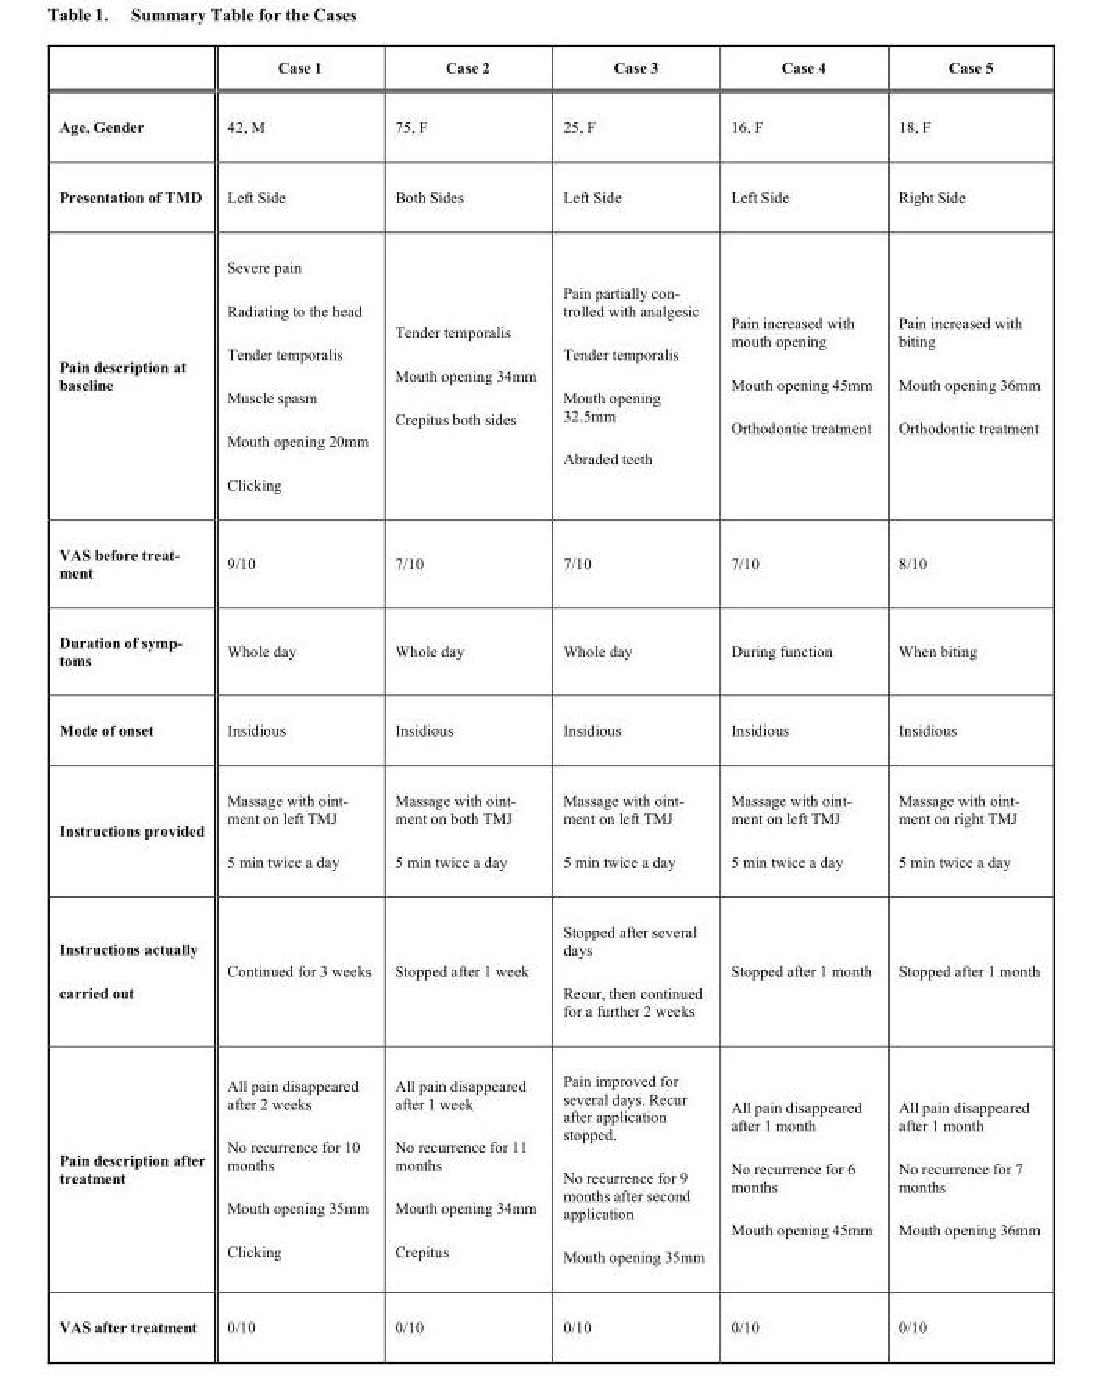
<table><thead><tr><td></td><td>Case 1</td><td>Case 2</td><td>Case 3</td><td>Case 4</td><td>Case 5</td></tr></thead><tbody><tr><td>Age, Gender</td><td>42, M</td><td>75, F</td><td>25, F</td><td>16, F</td><td>18, F</td></tr><tr><td>Presentation of TMD</td><td>Left Side</td><td>Both Sides</td><td>Left Side</td><td>Left Side</td><td>Right Side</td></tr><tr><td>Pain description at baseline</td><td>Severe pain Radiating to the head Tender temporalis Muscle spasm Mouth opening 20mm Clicking</td><td>Tender temporalis Mouth opening 34mm Crepitus both sides</td><td>Pain partially con- trolled with analgesic Tender temporalis Mouth opening 32.5mm Abraded teeth</td><td>Pain increased with mouth opening Mouth opening 45mm Orthodontic treatment</td><td>Pain increased with biting Mouth opening 36mm Orthodontic treatment</td></tr><tr><td>VAS before treat- ment</td><td>9/10</td><td>7/10</td><td>7/10</td><td>7/10</td><td>8/10</td></tr><tr><td>Duration of symp- toms</td><td>Whole day</td><td>Whole day</td><td>Whole day</td><td>During function</td><td>When biting</td></tr><tr><td>Mode of onset</td><td>Insidious</td><td>Insidious</td><td>Insidious</td><td>Insidious</td><td>Insidious</td></tr><tr><td>Instructions provided</td><td>Massage with oint- ment on left TMJ 5 min twice a day</td><td>Massage with oint- ment on both TMJ 5 min twice a day</td><td>Massage with oint- ment on left TMJ 5 min twice a day</td><td>Massage with oint- ment on left TMJ 5 min twice a day</td><td>Massage with oint- ment on right TMJ 5 min twice a day</td></tr><tr><td>Instructions actually carried out</td><td>Continued for 3 weeks</td><td>Stopped after 1 week</td><td>Stopped after several days Recur, then continued for a further 2 weeks</td><td>Stopped after 1 month</td><td>Stopped after 1 month</td></tr><tr><td>Pain description after treatment</td><td>All pain disappeared after 2 weeks No recurrence for 10 months Mouth opening 35mm Clicking</td><td>All pain disappeared after 1 week No recurrence for 11 months Mouth opening 34mm Crepitus</td><td>Pain improved for several days. Recur after application stopped. No recurrence for 9 months after second application Mouth opening 35mm</td><td>All pain disappeared after 1 month No recurrence for 6 months Mouth opening 45mm</td><td>All pain disappeared after 1 month No recurrence for 7 months Mouth opening 36mm</td></tr><tr><td>VAS after treatment</td><td>0/10</td><td>0/10</td><td>0/10</td><td>0/10</td><td>0/10</td></tr></tbody></table>